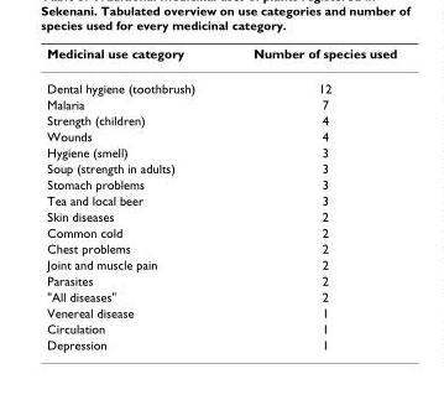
<table><thead><tr><td>Medicinal use category</td><td>Number of species used</td></tr></thead><tbody><tr><td>Dental hygiene (toothbrush)</td><td>12</td></tr><tr><td>Malaria</td><td>7</td></tr><tr><td>Strength (children)</td><td>4</td></tr><tr><td>Wounds</td><td>4</td></tr><tr><td>Hygiene (smell)</td><td>3</td></tr><tr><td>Soup (strength in adults)</td><td>3</td></tr><tr><td>Stomach problems</td><td>3</td></tr><tr><td>Tea and local beer</td><td>3</td></tr><tr><td>Skin diseases</td><td>2</td></tr><tr><td>Common cold</td><td>2</td></tr><tr><td>Chest problems</td><td>2</td></tr><tr><td>Joint and muscle pain</td><td>2</td></tr><tr><td>Parasites</td><td>2</td></tr><tr><td>&quot;All diseases&quot;</td><td>2</td></tr><tr><td>Venereal disease</td><td>1</td></tr><tr><td>Circulation</td><td>1</td></tr><tr><td>Depression</td><td>1</td></tr></tbody></table>